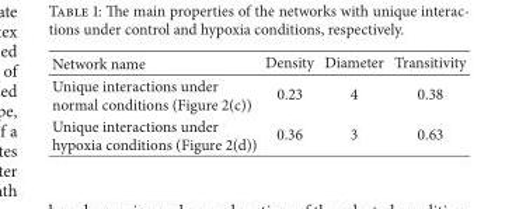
<table><thead><tr><td>Network name</td><td>Density</td><td>Diameter</td><td>Transitivity</td></tr></thead><tbody><tr><td>Unique interactions under normal conditions (Figure 2(c))</td><td>0.23</td><td>4</td><td>0.38</td></tr><tr><td>Unique interactions under hypoxia conditions (Figure 2(d))</td><td>0.36</td><td>3</td><td>0.63</td></tr></tbody></table>